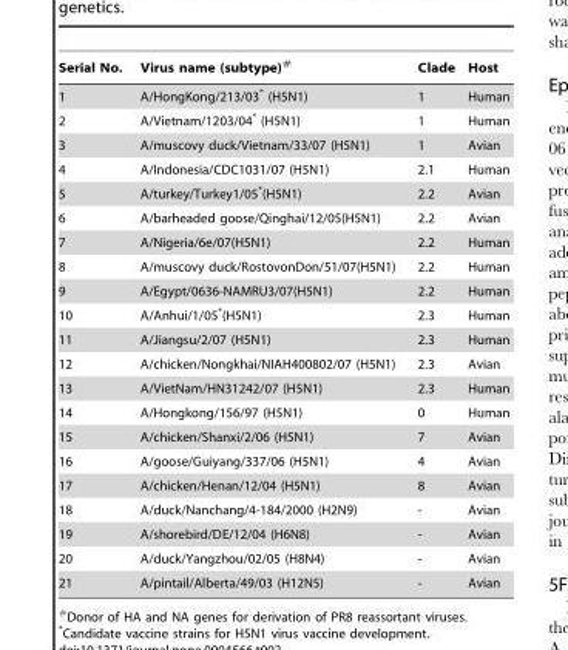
<table><thead><tr><td>Serial No.</td><td>Virus name (subtype)#</td><td>Clade</td><td>Host</td></tr></thead><tbody><tr><td>1</td><td>A/HongKong/213/03* (H5N1)</td><td>1</td><td>Human</td></tr><tr><td>2</td><td>A/Vietnam/1203/04* (H5N1)</td><td>1</td><td>Human</td></tr><tr><td>3</td><td>A/muscovy duck/Vietnam/33/07 (H5N1)</td><td>1</td><td>Avian</td></tr><tr><td>4</td><td>A/Indonesia/CDC1031/07 (H5N1)</td><td>2.1</td><td>Human</td></tr><tr><td>5</td><td>A/turkey/Turkey1/05*(H5N1)</td><td>2.2</td><td>Avian</td></tr><tr><td>6</td><td>A/barheaded goose/Qinghai/12/05(H5N1)</td><td>2.2</td><td>Avian</td></tr><tr><td>7</td><td>A/Nigeria/6e/07(H5N1)</td><td>2.2</td><td>Human</td></tr><tr><td>8</td><td>A/muscovy duck/RostovonDon/51/07(H5N1)</td><td>2.2</td><td>Human</td></tr><tr><td>9</td><td>A/Egypt/0636-NAMRU3/07(H5N1)</td><td>2.2</td><td>Human</td></tr><tr><td>10</td><td>A/Anhui/1/05*(H5N1)</td><td>2.3</td><td>Human</td></tr><tr><td>11</td><td>A/Jiangsu/2/07 (H5N1)</td><td>2.3</td><td>Human</td></tr><tr><td>12</td><td>A/chicken/Nongkhai/NIAH400802/07 (H5N1)</td><td>2.3</td><td>Avian</td></tr><tr><td>13</td><td>A/VietNam/HN31242/07 (H5N1)</td><td>2.3</td><td>Human</td></tr><tr><td>14</td><td>A/Hongkong/156/97 (H5N1)</td><td>0</td><td>Human</td></tr><tr><td>15</td><td>A/chicken/Shanxi/2/06 (H5N1)</td><td>7</td><td>Avian</td></tr><tr><td>16</td><td>A/goose/Guiyang/337/06 (H5N1)</td><td>4</td><td>Avian</td></tr><tr><td>17</td><td>A/chicken/Henan/12/04 (H5N1)</td><td>8</td><td>Avian</td></tr><tr><td>18</td><td>A/duck/Nanchang/4-184/2000 (H2N9)</td><td>-</td><td>Avian</td></tr><tr><td>19</td><td>A/shorebird/DE/12/04 (H6N8)</td><td>-</td><td>Avian</td></tr><tr><td>20</td><td>A/duck/Yangzhou/02/05 (H8N4)</td><td>-</td><td>Avian</td></tr><tr><td>21</td><td>A/pintail/Alberta/49/03 (H12N5)</td><td>-</td><td>Avian</td></tr></tbody></table>